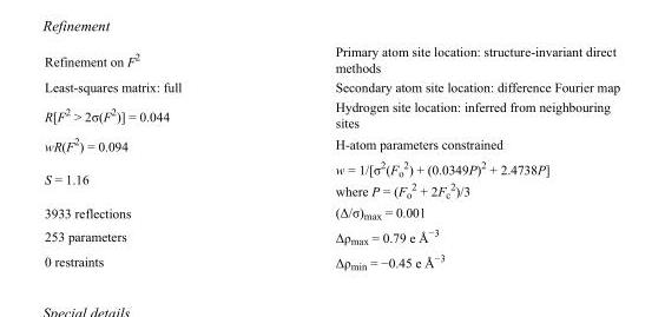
<table><tbody><tr><td>Refinement on F<sup>2</sup></td><td>Primary atom site location: structure-invariant direct methods</td></tr><tr><td>Least-squares matrix: full</td><td>Secondary atom site location: difference Fourier map</td></tr><tr><td>R[F<sup>2</sup> &gt; 2σ(F<sup>2</sup>)] = 0.044</td><td>Hydrogen site location: inferred from neighbouring sites</td></tr><tr><td>wR(F<sup>2</sup>) = 0.094</td><td>H-atom parameters constrained</td></tr><tr><td>S = 1.16</td><td>w = 1/[σ<sup>2</sup>(F<sub>o</sub> <sup>2</sup>) + (0.0349P)<sup>2</sup> + 2.4738P] where P = (F<sub>o</sub> <sup>2</sup> + 2F<sub>c</sub> <sup>2</sup>)/3</td></tr><tr><td>3933 reflections</td><td>(Δ/σ)<sub>max</sub> = 0.001</td></tr><tr><td>253 parameters</td><td>Δρ<sub>max</sub> = 0.79 e Å<sup>−3</sup></td></tr><tr><td>0 restraints</td><td>Δρ<sub>min</sub> = −0.45 e Å<sup>−3</sup></td></tr></tbody></table>